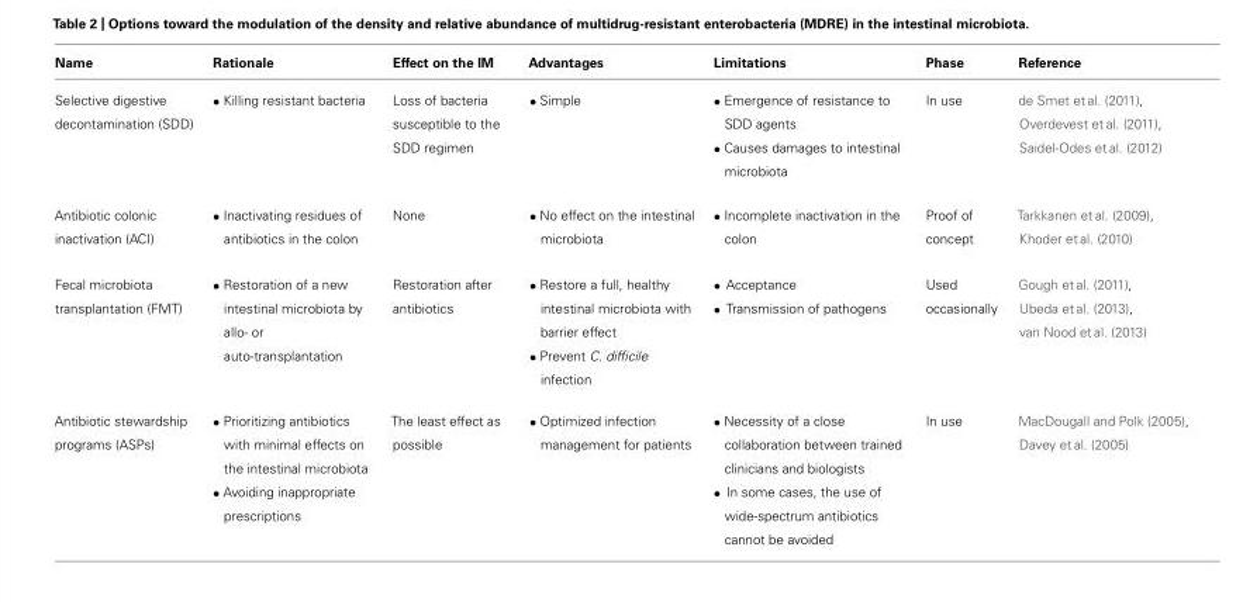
<table><thead><tr><td>Name</td><td>Rationale</td><td>Effect on the IM</td><td>Advantages</td><td>Limitations</td><td>Phase</td><td>Reference</td></tr></thead><tbody><tr><td>Selective digestive decontamination (SDD)</td><td>• Killing resistant bacteria</td><td>Loss of bacteria susceptible to the SDD regimen</td><td>• Simple</td><td>• Emergence of resistance to SDD agents • Causes damages to intestinal microbiota</td><td>In use</td><td>de Smet et al. (2011), Overdevest et al. (2011), Saidel-Odes et al. (2012)</td></tr><tr><td>Antibiotic colonic inactivation (ACI)</td><td>• Inactivating residues of antibiotics in the colon</td><td>None</td><td>• No effect on the intestinal microbiota</td><td>• Incomplete inactivation in the colon</td><td>Proof of concept</td><td>Tarkkanen et al. (2009), Khoder et al. (2010)</td></tr><tr><td>Fecal microbiota transplantation (FMT)</td><td>• Restoration of a new intestinal microbiota by allo- or auto-transplantation</td><td>Restoration after antibiotics</td><td>• Restore a full, healthy intestinal microbiota with barrier effect • Prevent C. difficile infection</td><td>• Acceptance • Transmission of pathogens</td><td>Used occasionally</td><td>Gough et al. (2011), Ubeda et al. (2013), van Nood et al. (2013)</td></tr><tr><td>Antibiotic stewardship programs (ASPs)</td><td>• Prioritizing antibiotics with minimal effects on the intestinal microbiota • Avoiding inappropriate prescriptions</td><td>The least effect as possible</td><td>• Optimized infection management for patients</td><td>• Necessity of a close collaboration between trained clinicians and biologists • In some cases, the use of wide-spectrum antibiotics cannot be avoided</td><td>In use</td><td>MacDougall and Polk (2005), Davey et al. (2005)</td></tr></tbody></table>